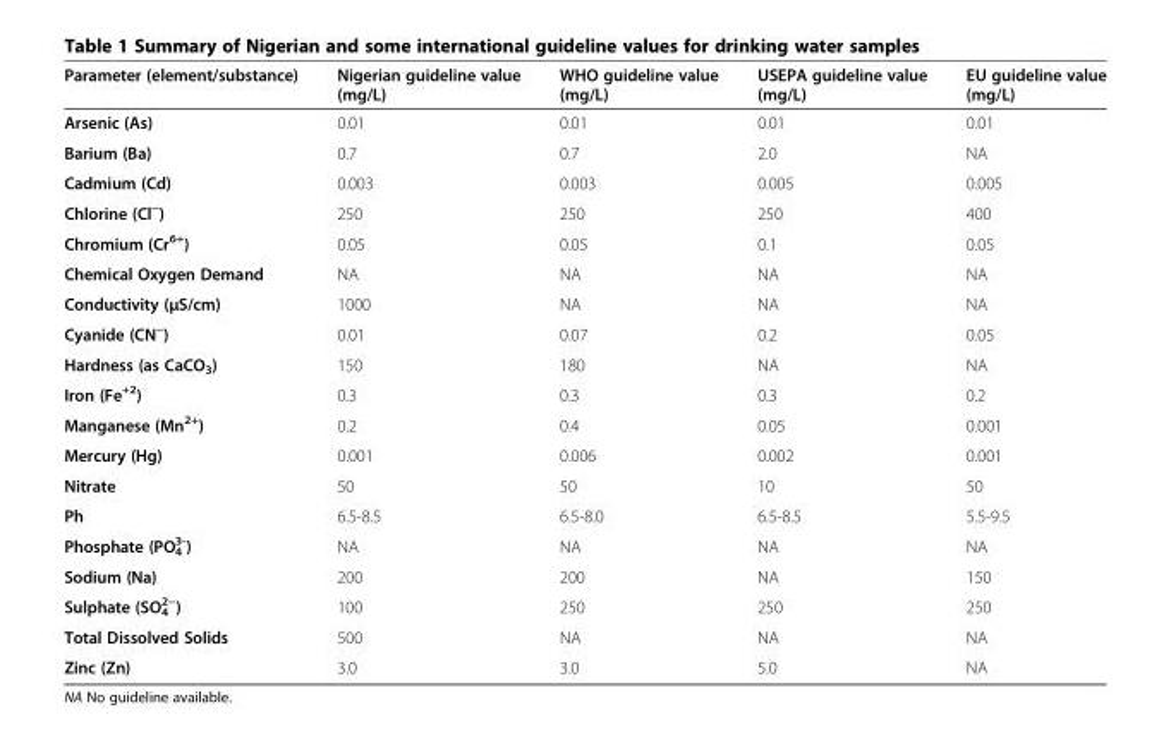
<table><thead><tr><td>Parameter (element/substance)</td><td>Nigerian guideline value (mg/L)</td><td>WHO guideline value (mg/L)</td><td>USEPA guideline value (mg/L)</td><td>EU guideline value (mg/L)</td></tr></thead><tbody><tr><td>Arsenic (As)</td><td>0.01</td><td>0.01</td><td>0.01</td><td>0.01</td></tr><tr><td>Barium (Ba)</td><td>0.7</td><td>0.7</td><td>2.0</td><td>NA</td></tr><tr><td>Cadmium (Cd)</td><td>0.003</td><td>0.003</td><td>0.005</td><td>0.005</td></tr><tr><td>Chlorine (Cl<sup>−</sup>)</td><td>250</td><td>250</td><td>250</td><td>400</td></tr><tr><td>Chromium (Cr<sup>6+</sup>)</td><td>0.05</td><td>0.05</td><td>0.1</td><td>0.05</td></tr><tr><td>Chemical Oxygen Demand</td><td>NA</td><td>NA</td><td>NA</td><td>NA</td></tr><tr><td>Conductivity (μS/cm)</td><td>1000</td><td>NA</td><td>NA</td><td>NA</td></tr><tr><td>Cyanide (CN<sup>−</sup>)</td><td>0.01</td><td>0.07</td><td>0.2</td><td>0.05</td></tr><tr><td>Hardness (as CaCO<sub>3</sub>)</td><td>150</td><td>180</td><td>NA</td><td>NA</td></tr><tr><td>Iron (Fe<sup>+2</sup>)</td><td>0.3</td><td>0.3</td><td>0.3</td><td>0.2</td></tr><tr><td>Manganese (Mn<sup>2+</sup>)</td><td>0.2</td><td>0.4</td><td>0.05</td><td>0.001</td></tr><tr><td>Mercury (Hg)</td><td>0.001</td><td>0.006</td><td>0.002</td><td>0.001</td></tr><tr><td>Nitrate</td><td>50</td><td>50</td><td>10</td><td>50</td></tr><tr><td>Ph</td><td>6.5-8.5</td><td>6.5-8.0</td><td>6.5-8.5</td><td>5.5-9.5</td></tr><tr><td>Phosphate (PO<sub>4</sub> <sup>3-</sup>)</td><td>NA</td><td>NA</td><td>NA</td><td>NA</td></tr><tr><td>Sodium (Na)</td><td>200</td><td>200</td><td>NA</td><td>150</td></tr><tr><td>Sulphate (SO<sub>4</sub> <sup>2−</sup>)</td><td>100</td><td>250</td><td>250</td><td>250</td></tr><tr><td>Total Dissolved Solids</td><td>500</td><td>NA</td><td>NA</td><td>NA</td></tr><tr><td>Zinc (Zn)</td><td>3.0</td><td>3.0</td><td>5.0</td><td>NA</td></tr></tbody></table>